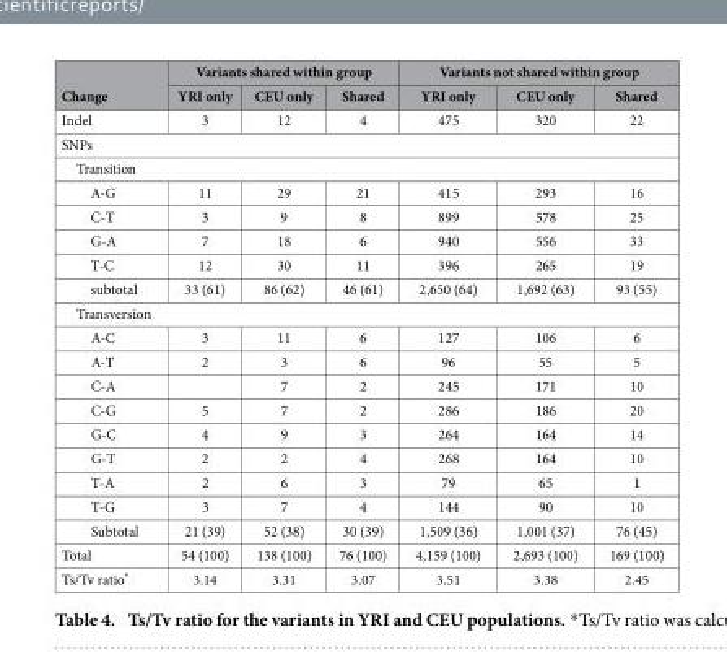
<table><thead><tr><td rowspan="2">Change</td><td colspan="3">Variants shared within group</td><td colspan="3">Variants not shared within group</td></tr><tr><td>YRI only</td><td>CEU only</td><td>Shared</td><td>YRI only</td><td>CEU only</td><td>Shared</td></tr></thead><tbody><tr><td>Indel</td><td>3</td><td>12</td><td>4</td><td>475</td><td>320</td><td>22</td></tr><tr><td colspan="7">SNPs</td></tr><tr><td colspan="7">Transition</td></tr><tr><td>A-G</td><td>11</td><td>29</td><td>21</td><td>415</td><td>293</td><td>16</td></tr><tr><td>C-T</td><td>3</td><td>9</td><td>8</td><td>899</td><td>578</td><td>25</td></tr><tr><td>G-A</td><td>7</td><td>18</td><td>6</td><td>940</td><td>556</td><td>33</td></tr><tr><td>T-C</td><td>12</td><td>30</td><td>11</td><td>396</td><td>265</td><td>19</td></tr><tr><td>subtotal</td><td>33 (61)</td><td>86 (62)</td><td>46 (61)</td><td>2,650 (64)</td><td>1,692 (63)</td><td>93 (55)</td></tr><tr><td colspan="7">Transversion</td></tr><tr><td>A-C</td><td>3</td><td>11</td><td>6</td><td>127</td><td>106</td><td>6</td></tr><tr><td>A-T</td><td>2</td><td>3</td><td>6</td><td>96</td><td>55</td><td>5</td></tr><tr><td>C-A</td><td></td><td>7</td><td>2</td><td>245</td><td>171</td><td>10</td></tr><tr><td>C-G</td><td>5</td><td>7</td><td>2</td><td>286</td><td>186</td><td>20</td></tr><tr><td>G-C</td><td>4</td><td>9</td><td>3</td><td>264</td><td>164</td><td>14</td></tr><tr><td>G-T</td><td>2</td><td>2</td><td>4</td><td>268</td><td>164</td><td>10</td></tr><tr><td>T-A</td><td>2</td><td>6</td><td>3</td><td>79</td><td>65</td><td>1</td></tr><tr><td>T-G</td><td>3</td><td>7</td><td>4</td><td>144</td><td>90</td><td>10</td></tr><tr><td>Subtotal</td><td>21 (39)</td><td>52 (38)</td><td>30 (39)</td><td>1,509 (36)</td><td>1,001 (37)</td><td>76 (45)</td></tr><tr><td>Total</td><td>54 (100)</td><td>138 (100)</td><td>76 (100)</td><td>4,159 (100)</td><td>2,693 (100)</td><td>169 (100)</td></tr><tr><td>Ts/Tv ratio*</td><td>3.14</td><td>3.31</td><td>3.07</td><td>3.51</td><td>3.38</td><td>2.45</td></tr></tbody></table>